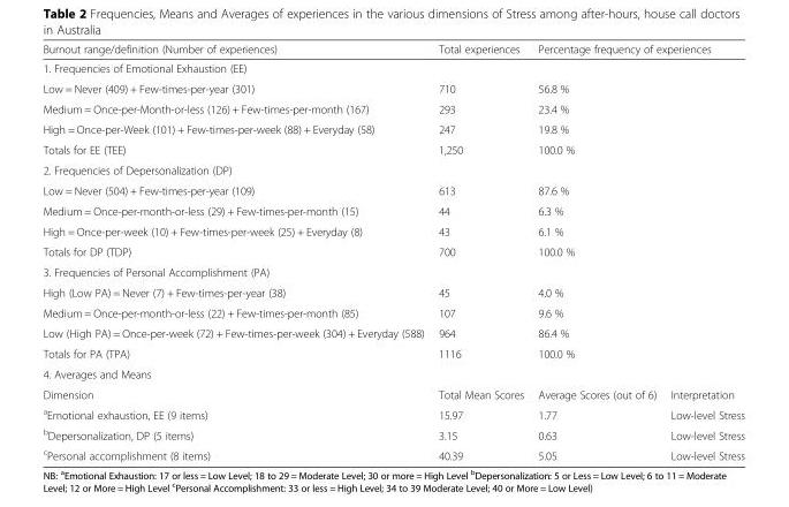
<table><thead><tr><td>Burnout range/definition (Number of experiences)</td><td>Total experiences</td><td colspan="2">Percentage frequency of experiences</td></tr></thead><tbody><tr><td colspan="4">1. Frequencies of Emotional Exhaustion (EE)</td></tr><tr><td>Low = Never (409) + Few-times-per-year (301)</td><td>710</td><td colspan="2">56.8 %</td></tr><tr><td>Medium = Once-per-Month-or-less (126) + Few-times-per-month (167)</td><td>293</td><td colspan="2">23.4 %</td></tr><tr><td>High = Once-per-Week (101) + Few-times-per-week (88) + Everyday (58)</td><td>247</td><td colspan="2">19.8 %</td></tr><tr><td>Totals for EE (TEE)</td><td>1,250</td><td colspan="2">100.0 %</td></tr><tr><td colspan="4">2. Frequencies of Depersonalization (DP)</td></tr><tr><td>Low = Never (504) + Few-times-per-year (109)</td><td>613</td><td colspan="2">87.6 %</td></tr><tr><td>Medium = Once-per-month-or-less (29) + Few-times-per-month (15)</td><td>44</td><td colspan="2">6.3 %</td></tr><tr><td>High = Once-per-week (10) + Few-times-per-week (25) + Everyday (8)</td><td>43</td><td colspan="2">6.1 %</td></tr><tr><td>Totals for DP (TDP)</td><td>700</td><td colspan="2">100.0 %</td></tr><tr><td colspan="4">3. Frequencies of Personal Accomplishment (PA)</td></tr><tr><td>High (Low PA) = Never (7) + Few-times-per-year (38)</td><td>45</td><td colspan="2">4.0 %</td></tr><tr><td>Medium = Once-per-month-or-less (22) + Few-times-per-month (85)</td><td>107</td><td colspan="2">9.6 %</td></tr><tr><td>Low (High PA) = Once-per-week (72) + Few-times-per-week (304) + Everyday (588)</td><td>964</td><td colspan="2">86.4 %</td></tr><tr><td>Totals for PA (TPA)</td><td>1116</td><td colspan="2">100.0 %</td></tr><tr><td colspan="4">4. Averages and Means</td></tr><tr><td>Dimension</td><td>Total Mean Scores</td><td>Average Scores (out of 6)</td><td>Interpretation</td></tr><tr><td><sup>a</sup>Emotional exhaustion, EE (9 items)</td><td>15.97</td><td>1.77</td><td>Low-level Stress</td></tr><tr><td><sup>b</sup>Depersonalization, DP (5 items)</td><td>3.15</td><td>0.63</td><td>Low-level Stress</td></tr><tr><td><sup>c</sup>Personal accomplishment (8 items)</td><td>40.39</td><td>5.05</td><td>Low-level Stress</td></tr></tbody></table>